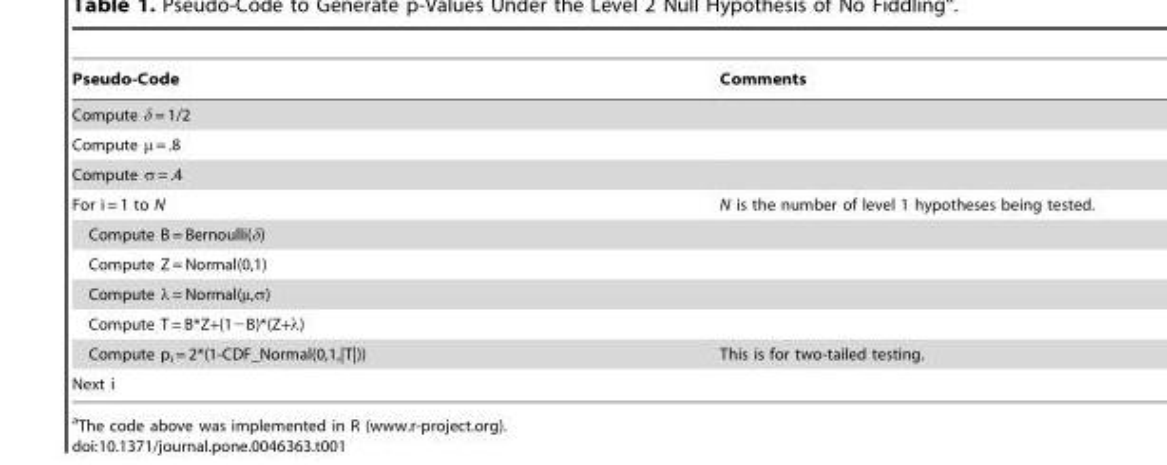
<table><thead><tr><td>Pseudo-Code</td><td>Comments</td></tr></thead><tbody><tr><td colspan="2">Compute d = 1/2</td></tr><tr><td colspan="2">Compute μ = .8</td></tr><tr><td colspan="2">Compute σ = .4</td></tr><tr><td>For i = 1 to N</td><td>N is the number of level 1 hypotheses being tested.</td></tr><tr><td colspan="2">Compute B = Bernoulli(d)</td></tr><tr><td colspan="2">Compute Z = Normal(0,1)</td></tr><tr><td colspan="2">Compute λ = Normal(μ,σ)</td></tr><tr><td colspan="2">Compute T = B*Z+(1−B)*(Z+λ)</td></tr><tr><td>Compute p<sub>i</sub> = 2*(1-CDF_Normal(0,1,|T|))</td><td>This is for two-tailed testing.</td></tr><tr><td>Next i</td><td></td></tr></tbody></table>